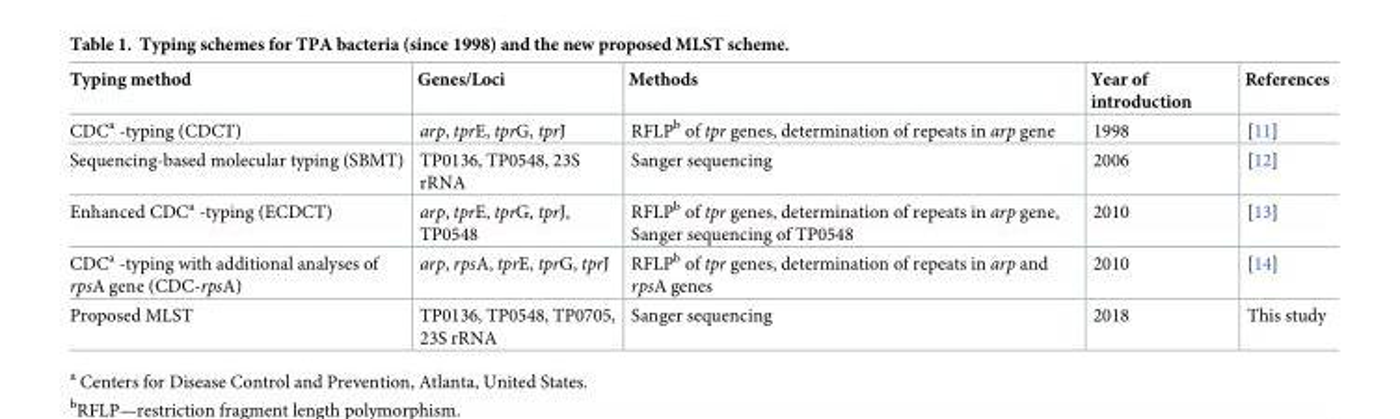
<table><thead><tr><td>Typing method</td><td>Genes/Loci</td><td>Methods</td><td>Year of introduction</td><td>References</td></tr></thead><tbody><tr><td>CDC<sup>a</sup> -typing (CDCT)</td><td>arp, tprE, tprG, tprJ</td><td>RFLP<sup>b</sup> of tpr genes, determination of repeats in arp gene</td><td>1998</td><td>[11]</td></tr><tr><td>Sequencing-based molecular typing (SBMT)</td><td>TP0136, TP0548, 23S rRNA</td><td>Sanger sequencing</td><td>2006</td><td>[12]</td></tr><tr><td>Enhanced CDC<sup>a</sup> -typing (ECDCT)</td><td>arp, tprE, tprG, tprJ, TP0548</td><td>RFLP<sup>b</sup> of tpr genes, determination of repeats in arp gene, Sanger sequencing of TP0548</td><td>2010</td><td>[13]</td></tr><tr><td>CDC<sup>a</sup> -typing with additional analyses of rpsA gene (CDC-rpsA)</td><td>arp, rpsA, tprE, tprG, tprJ</td><td>RFLP<sup>b</sup> of tpr genes, determination of repeats in arp and rpsA genes</td><td>2010</td><td>[14]</td></tr><tr><td>Proposed MLST</td><td>TP0136, TP0548, TP0705, 23S rRNA</td><td>Sanger sequencing</td><td>2018</td><td>This study</td></tr></tbody></table>